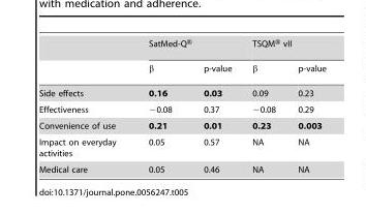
<table><thead><tr><td rowspan="2"></td><td colspan="2">SatMed-Q®</td><td colspan="2">TSQM® vII</td></tr><tr><td>β</td><td>p-value</td><td>β</td><td>p-value</td></tr></thead><tbody><tr><td>Side effects</td><td>0.16</td><td>0.03</td><td>0.09</td><td>0.23</td></tr><tr><td>Effectiveness</td><td>−0.08</td><td>0.37</td><td>−0.08</td><td>0.29</td></tr><tr><td>Convenience of use</td><td>0.21</td><td>0.01</td><td>0.23</td><td>0.003</td></tr><tr><td>Impact on everyday activities</td><td>0.05</td><td>0.57</td><td>NA</td><td>NA</td></tr><tr><td>Medical care</td><td>0.05</td><td>0.46</td><td>NA</td><td>NA</td></tr></tbody></table>